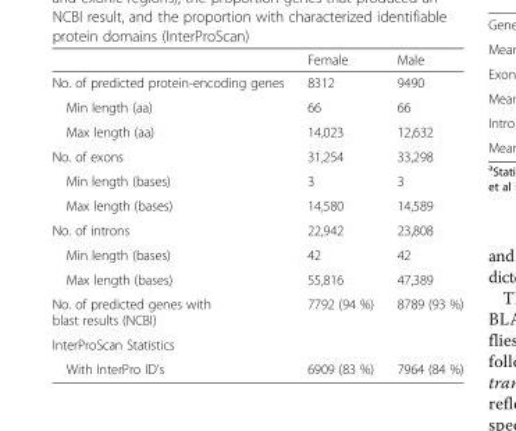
<table><thead><tr><td></td><td>Female</td><td>Male</td></tr></thead><tbody><tr><td>No. of predicted protein-encoding genes</td><td>8312</td><td>9490</td></tr><tr><td>Min length (aa)</td><td>66</td><td>66</td></tr><tr><td>Max length (aa)</td><td>14,023</td><td>12,632</td></tr><tr><td>No. of exons</td><td>31,254</td><td>33,298</td></tr><tr><td>Min length (bases)</td><td>3</td><td>3</td></tr><tr><td>Max length (bases)</td><td>14,580</td><td>14,589</td></tr><tr><td>No. of introns</td><td>22,942</td><td>23,808</td></tr><tr><td>Min length (bases)</td><td>42</td><td>42</td></tr><tr><td>Max length (bases)</td><td>55,816</td><td>47,389</td></tr><tr><td>No. of predicted genes with blast results (NCBI)</td><td>7792 (94 %)</td><td>8789 (93 %)</td></tr><tr><td colspan="3">InterProScan Statistics</td></tr><tr><td>With InterPro ID’s</td><td>6909 (83 %)</td><td>7964 (84 %)</td></tr></tbody></table>